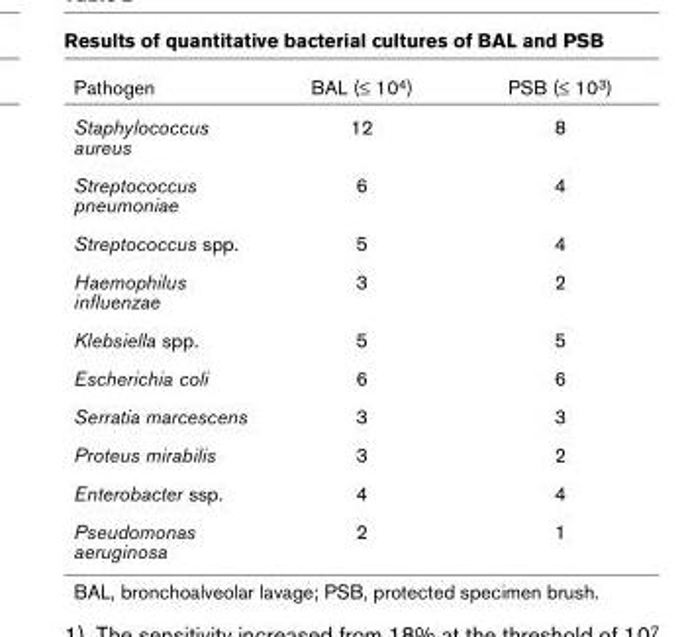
<table><thead><tr><td>Pathogen</td><td>BAL (≤ 10<sup>4</sup>)</td><td>PSB (≤ 10<sup>3</sup>)</td></tr></thead><tbody><tr><td>Staphylococcus aureus</td><td>12</td><td>8</td></tr><tr><td>Streptococcus pneumoniae</td><td>6</td><td>4</td></tr><tr><td>Streptococcus spp.</td><td>5</td><td>4</td></tr><tr><td>Haemophilus influenzae</td><td>3</td><td>2</td></tr><tr><td>Klebsiella spp.</td><td>5</td><td>5</td></tr><tr><td>Escherichia coli</td><td>6</td><td>6</td></tr><tr><td>Serratia marcescens</td><td>3</td><td>3</td></tr><tr><td>Proteus mirabilis</td><td>3</td><td>2</td></tr><tr><td>Enterobacter ssp.</td><td>4</td><td>4</td></tr><tr><td>Pseudomonas aeruginosa</td><td>2</td><td>1</td></tr></tbody></table>